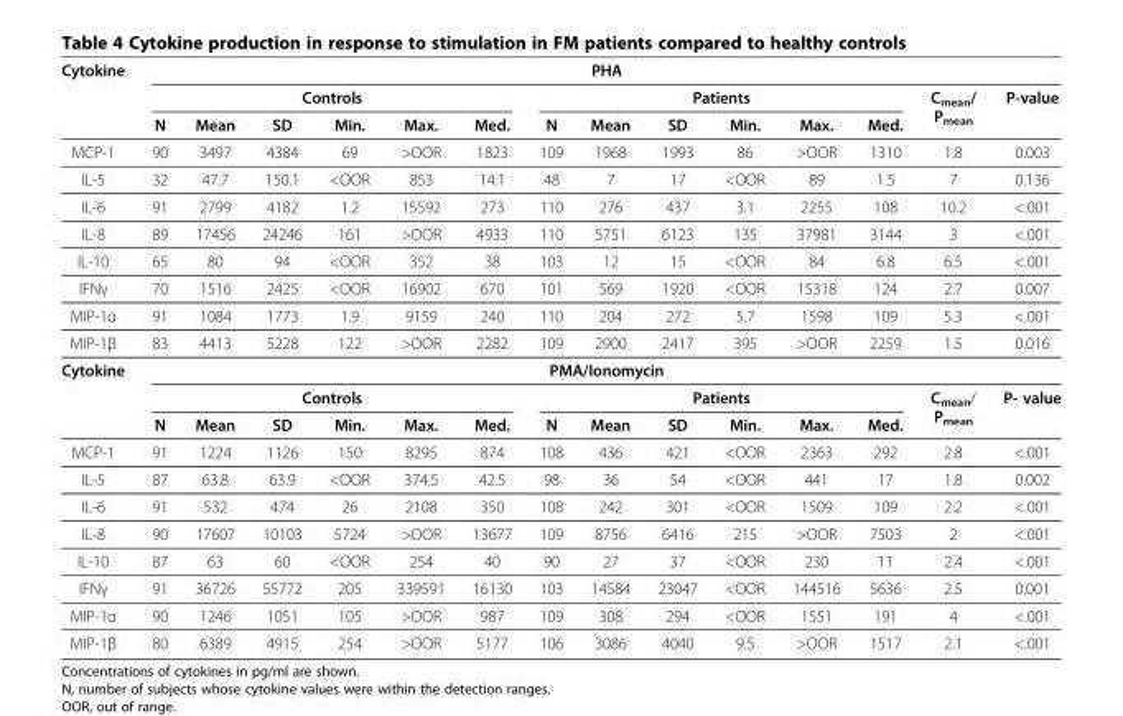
<table><thead><tr><td rowspan="3">Cytokine</td><td colspan="14">PHA</td></tr><tr><td colspan="6">Controls</td><td colspan="6">Patients</td><td rowspan="2">C<sub>mean</sub>/ P<sub>mean</sub></td><td rowspan="2">P-value</td></tr><tr><td>N</td><td>Mean</td><td>SD</td><td>Min.</td><td>Max.</td><td>Med.</td><td>N</td><td>Mean</td><td>SD</td><td>Min.</td><td>Max.</td><td>Med.</td></tr></thead><tbody><tr><td>MCP-1</td><td>90</td><td>3497</td><td>4384</td><td>69</td><td>&gt;OOR</td><td>1823</td><td>109</td><td>1968</td><td>1993</td><td>86</td><td>&gt;OOR</td><td>1310</td><td>1.8</td><td>0.003</td></tr><tr><td>IL-5</td><td>32</td><td>47.7</td><td>150.1</td><td>&lt;OOR</td><td>853</td><td>14.1</td><td>48</td><td>7</td><td>17</td><td>&lt;OOR</td><td>89</td><td>1.5</td><td>7</td><td>0.136</td></tr><tr><td>IL-6</td><td>91</td><td>2799</td><td>4182</td><td>1.2</td><td>15592</td><td>273</td><td>110</td><td>276</td><td>437</td><td>3.1</td><td>2255</td><td>108</td><td>10.2</td><td>&lt;.001</td></tr><tr><td>IL-8</td><td>89</td><td>17456</td><td>24246</td><td>161</td><td>&gt;OOR</td><td>4933</td><td>110</td><td>5751</td><td>6123</td><td>135</td><td>37981</td><td>3144</td><td>3</td><td>&lt;.001</td></tr><tr><td>IL-10</td><td>65</td><td>80</td><td>94</td><td>&lt;OOR</td><td>352</td><td>38</td><td>103</td><td>12</td><td>15</td><td>&lt;OOR</td><td>84</td><td>6.8</td><td>6.5</td><td>&lt;.001</td></tr><tr><td>IFNγ</td><td>70</td><td>1516</td><td>2425</td><td>&lt;OOR</td><td>16902</td><td>670</td><td>101</td><td>569</td><td>1920</td><td>&lt;OOR</td><td>15318</td><td>124</td><td>2.7</td><td>0.007</td></tr><tr><td>MIP-1α</td><td>91</td><td>1084</td><td>1773</td><td>1.9</td><td>9159</td><td>240</td><td>110</td><td>204</td><td>272</td><td>5.7</td><td>1598</td><td>109</td><td>5.3</td><td>&lt;.001</td></tr><tr><td>MIP-1β</td><td>83</td><td>4413</td><td>5228</td><td>122</td><td>&gt;OOR</td><td>2282</td><td>109</td><td>2900</td><td>2417</td><td>395</td><td>&gt;OOR</td><td>2259</td><td>1.5</td><td>0.016</td></tr><tr><td rowspan="3">Cytokine</td><td colspan="14">PMA/Ionomycin</td></tr><tr><td colspan="6">Controls</td><td colspan="6">Patients</td><td rowspan="2">C<sub>mean</sub>/ P<sub>mean</sub></td><td rowspan="2">P- value</td></tr><tr><td>N</td><td>Mean</td><td>SD</td><td>Min.</td><td>Max.</td><td>Med.</td><td>N</td><td>Mean</td><td>SD</td><td>Min.</td><td>Max.</td><td>Med.</td></tr><tr><td>MCP-1</td><td>91</td><td>1224</td><td>1126</td><td>150</td><td>8295</td><td>874</td><td>108</td><td>436</td><td>421</td><td>&lt;OOR</td><td>2363</td><td>292</td><td>2.8</td><td>&lt;.001</td></tr><tr><td>IL-5</td><td>87</td><td>63.8</td><td>63.9</td><td>&lt;OOR</td><td>374.5</td><td>42.5</td><td>98</td><td>36</td><td>54</td><td>&lt;OOR</td><td>441</td><td>17</td><td>1.8</td><td>0.002</td></tr><tr><td>IL-6</td><td>91</td><td>532</td><td>474</td><td>26</td><td>2108</td><td>350</td><td>108</td><td>242</td><td>301</td><td>&lt;OOR</td><td>1509</td><td>109</td><td>2.2</td><td>&lt;.001</td></tr><tr><td>IL-8</td><td>90</td><td>17607</td><td>10103</td><td>5724</td><td>&gt;OOR</td><td>13677</td><td>109</td><td>8756</td><td>6416</td><td>215</td><td>&gt;OOR</td><td>7503</td><td>2</td><td>&lt;.001</td></tr><tr><td>IL-10</td><td>87</td><td>63</td><td>60</td><td>&lt;OOR</td><td>254</td><td>40</td><td>90</td><td>27</td><td>37</td><td>&lt;OOR</td><td>230</td><td>11</td><td>2.4</td><td>&lt;.001</td></tr><tr><td>IFNγ</td><td>91</td><td>36726</td><td>55772</td><td>205</td><td>339591</td><td>16130</td><td>103</td><td>14584</td><td>23047</td><td>&lt;OOR</td><td>144516</td><td>5636</td><td>2.5</td><td>0.001</td></tr><tr><td>MIP-1α</td><td>90</td><td>1246</td><td>1051</td><td>105</td><td>&gt;OOR</td><td>987</td><td>109</td><td>308</td><td>294</td><td>&lt;OOR</td><td>1551</td><td>191</td><td>4</td><td>&lt;.001</td></tr><tr><td>MIP-1β</td><td>80</td><td>6389</td><td>4915</td><td>254</td><td>&gt;OOR</td><td>5177</td><td>106</td><td>3086</td><td>4040</td><td>9.5</td><td>&gt;OOR</td><td>1517</td><td>2.1</td><td>&lt;.001</td></tr></tbody></table>